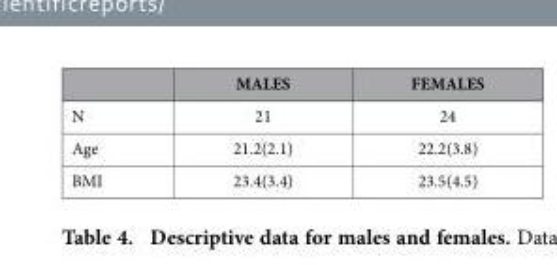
<table><thead><tr><td></td><td>MALES</td><td>FEMALES</td></tr></thead><tbody><tr><td>N</td><td>21</td><td>24</td></tr><tr><td>Age</td><td>21.2(2.1)</td><td>22.2(3.8)</td></tr><tr><td>BMI</td><td>23.4(3.4)</td><td>23.5(4.5)</td></tr></tbody></table>